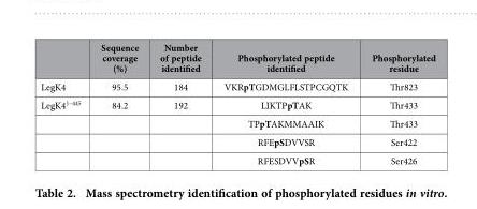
<table><thead><tr><td></td><td>Sequence coverage (%)</td><td>Number of peptide identified</td><td>Phosphorylated peptide identified</td><td>Phosphorylated residue</td></tr></thead><tbody><tr><td>LegK4</td><td>95.5</td><td>184</td><td>VKRpTGDMGLFLSTPCGQTK</td><td>Thr823</td></tr><tr><td rowspan="4">LegK4<sup>1–445</sup></td><td>84.2</td><td>192</td><td>LIKTPpTAK</td><td>Thr433</td></tr><tr><td></td><td></td><td>TPpTAKMMAAIK</td><td>Thr433</td></tr><tr><td></td><td></td><td>RFEpSDVVSR</td><td>Ser422</td></tr><tr><td></td><td></td><td>RFESDVVpSR</td><td>Ser426</td></tr></tbody></table>